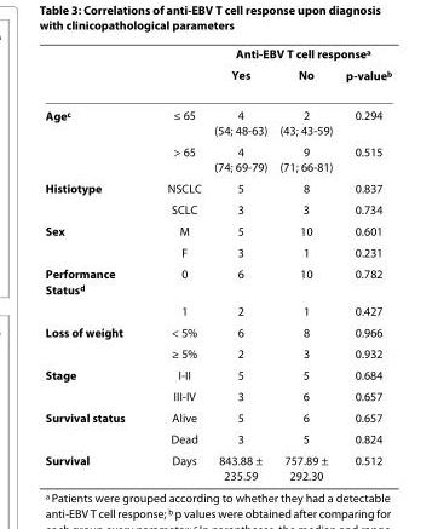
<table><thead><tr><td rowspan="2"></td><td rowspan="2"></td><td colspan="3">Anti-EBV T cell response<sup>a</sup></td></tr><tr><td>Yes</td><td>No</td><td>p-value<sup>b</sup></td></tr></thead><tbody><tr><td rowspan="2">Age<sup>c</sup></td><td>≤ 65</td><td>4 (54; 48-63)</td><td>2 (43; 43-59)</td><td>0.294</td></tr><tr><td>&gt; 65</td><td>4 (74; 69-79)</td><td>9 (71; 66-81)</td><td>0.515</td></tr><tr><td rowspan="2">Histiotype</td><td>NSCLC</td><td>5</td><td>8</td><td>0.837</td></tr><tr><td>SCLC</td><td>3</td><td>3</td><td>0.734</td></tr><tr><td rowspan="2">Sex</td><td>M</td><td>5</td><td>10</td><td>0.601</td></tr><tr><td>F</td><td>3</td><td>1</td><td>0.231</td></tr><tr><td rowspan="2">Performance Status<sup>d</sup></td><td>0</td><td>6</td><td>10</td><td>0.782</td></tr><tr><td>1</td><td>2</td><td>1</td><td>0.427</td></tr><tr><td rowspan="2">Loss of weight</td><td>&lt; 5%</td><td>6</td><td>8</td><td>0.966</td></tr><tr><td>≥ 5%</td><td>2</td><td>3</td><td>0.932</td></tr><tr><td rowspan="2">Stage</td><td>I-II</td><td>5</td><td>5</td><td>0.684</td></tr><tr><td>III-IV</td><td>3</td><td>6</td><td>0.657</td></tr><tr><td rowspan="2">Survival status</td><td>Alive</td><td>5</td><td>6</td><td>0.657</td></tr><tr><td>Dead</td><td>3</td><td>5</td><td>0.824</td></tr><tr><td>Survival</td><td>Days</td><td>843.88 ± 235.59</td><td>757.89 ± 292.30</td><td>0.512</td></tr></tbody></table>